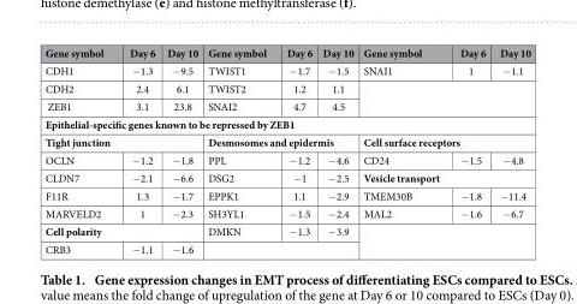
<table><thead><tr><td>Gene symbol</td><td>Day 6</td><td>Day 10</td><td>Gene symbol</td><td>Day 6</td><td>Day 10</td><td>Gene symbol</td><td>Day 6</td><td>Day 10</td></tr></thead><tbody><tr><td>CDH1</td><td>− 1.3</td><td>− 9.5</td><td>TWIST1</td><td>− 1.7</td><td>− 1.5</td><td>SNAI1</td><td>1</td><td>− 1.1</td></tr><tr><td>CDH2</td><td>2.4</td><td>6.1</td><td>TWIST2</td><td>1.2</td><td>1.1</td><td colspan="3"></td></tr><tr><td>ZEB1</td><td>3.1</td><td>23.8</td><td>SNAI2</td><td>4.7</td><td>4.5</td><td colspan="3"></td></tr><tr><td colspan="9">Epithelial-specific genes known to be repressed by ZEB1</td></tr><tr><td colspan="3">Tight junction</td><td colspan="3">Desmosomes and epidermis</td><td colspan="3">Cell surface receptors</td></tr><tr><td>OCLN</td><td>− 1.2</td><td>− 1.8</td><td>PPL</td><td>− 1.2</td><td>− 4.6</td><td>CD24</td><td>− 1.5</td><td>− 4.8</td></tr><tr><td>CLDN7</td><td>− 2.1</td><td>− 6.6</td><td>DSG2</td><td>− 1</td><td>− 2.5</td><td colspan="3">Vesicle transport</td></tr><tr><td>F11R</td><td>1.3</td><td>− 1.7</td><td>EPPK1</td><td>1.1</td><td>− 2.9</td><td>TMEM30B</td><td>− 1.8</td><td>− 11.4</td></tr><tr><td>MARVELD2</td><td>1</td><td>− 2.3</td><td>SH3YL1</td><td>− 1.5</td><td>− 2.4</td><td>MAL2</td><td>− 1.6</td><td>− 6.7</td></tr><tr><td colspan="3">Cell polarity</td><td>DMKN</td><td>− 1.3</td><td>− 3.9</td><td colspan="3"></td></tr><tr><td>CRB3</td><td>− 1.1</td><td>− 1.6</td><td colspan="3"></td><td colspan="3"></td></tr></tbody></table>